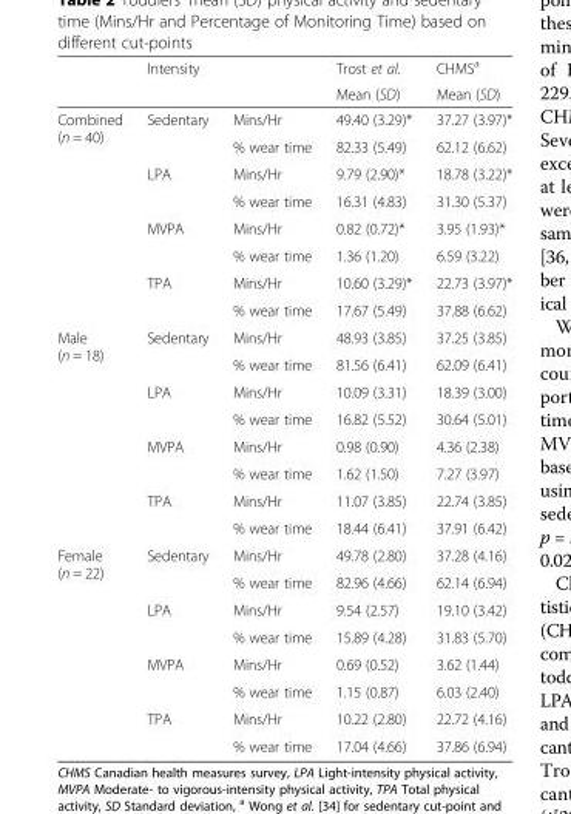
<table><thead><tr><td rowspan="2"></td><td rowspan="2">Intensity</td><td rowspan="2"></td><td rowspan="2">Trost et al. Mean (SD)</td><td rowspan="2">CHMS<sup>a</sup> Mean (SD)</td></tr><tr></tr></thead><tbody><tr><td rowspan="8">Combined (n = 40)</td><td rowspan="2">Sedentary</td><td>Mins/Hr</td><td>49.40 (3.29)*</td><td>37.27 (3.97)*</td></tr><tr><td>% wear time</td><td>82.33 (5.49)</td><td>62.12 (6.62)</td></tr><tr><td rowspan="2">LPA</td><td>Mins/Hr</td><td>9.79 (2.90)*</td><td>18.78 (3.22)*</td></tr><tr><td>% wear time</td><td>16.31 (4.83)</td><td>31.30 (5.37)</td></tr><tr><td rowspan="2">MVPA</td><td>Mins/Hr</td><td>0.82 (0.72)*</td><td>3.95 (1.93)*</td></tr><tr><td>% wear time</td><td>1.36 (1.20)</td><td>6.59 (3.22)</td></tr><tr><td rowspan="2">TPA</td><td>Mins/Hr</td><td>10.60 (3.29)*</td><td>22.73 (3.97)*</td></tr><tr><td>% wear time</td><td>17.67 (5.49)</td><td>37.88 (6.62)</td></tr><tr><td rowspan="8">Male (n = 18)</td><td rowspan="2">Sedentary</td><td>Mins/Hr</td><td>48.93 (3.85)</td><td>37.25 (3.85)</td></tr><tr><td>% wear time</td><td>81.56 (6.41)</td><td>62.09 (6.41)</td></tr><tr><td rowspan="2">LPA</td><td>Mins/Hr</td><td>10.09 (3.31)</td><td>18.39 (3.00)</td></tr><tr><td>% wear time</td><td>16.82 (5.52)</td><td>30.64 (5.01)</td></tr><tr><td rowspan="2">MVPA</td><td>Mins/Hr</td><td>0.98 (0.90)</td><td>4.36 (2.38)</td></tr><tr><td>% wear time</td><td>1.62 (1.50)</td><td>7.27 (3.97)</td></tr><tr><td rowspan="2">TPA</td><td>Mins/Hr</td><td>11.07 (3.85)</td><td>22.74 (3.85)</td></tr><tr><td>% wear time</td><td>18.44 (6.41)</td><td>37.91 (6.42)</td></tr><tr><td rowspan="8">Female (n = 22)</td><td rowspan="2">Sedentary</td><td>Mins/Hr</td><td>49.78 (2.80)</td><td>37.28 (4.16)</td></tr><tr><td>% wear time</td><td>82.96 (4.66)</td><td>62.14 (6.94)</td></tr><tr><td rowspan="2">LPA</td><td>Mins/Hr</td><td>9.54 (2.57)</td><td>19.10 (3.42)</td></tr><tr><td>% wear time</td><td>15.89 (4.28)</td><td>31.83 (5.70)</td></tr><tr><td rowspan="2">MVPA</td><td>Mins/Hr</td><td>0.69 (0.52)</td><td>3.62 (1.44)</td></tr><tr><td>% wear time</td><td>1.15 (0.87)</td><td>6.03 (2.40)</td></tr><tr><td rowspan="2">TPA</td><td>Mins/Hr</td><td>10.22 (2.80)</td><td>22.72 (4.16)</td></tr><tr><td>% wear time</td><td>17.04 (4.66)</td><td>37.86 (6.94)</td></tr></tbody></table>